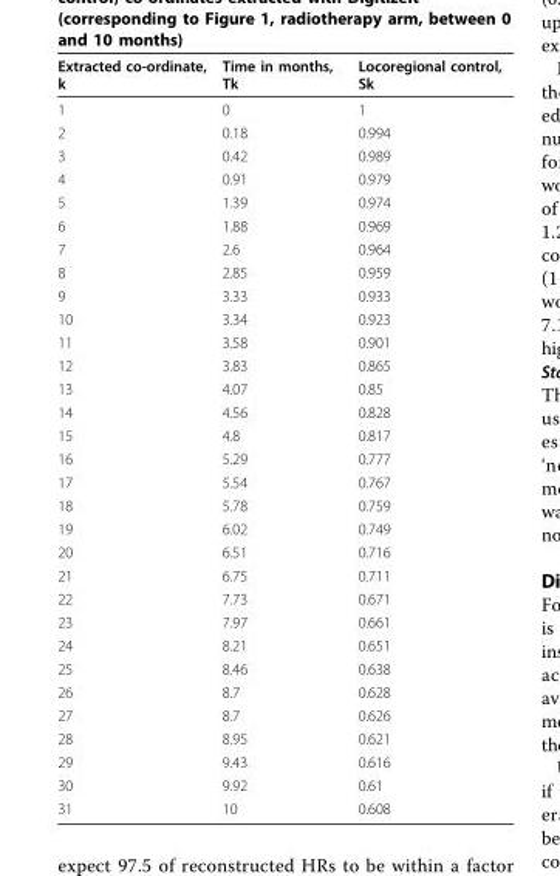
<table><thead><tr><td>Extracted co-ordinate, k</td><td>Time in months, Tk</td><td>Locoregional control, Sk</td></tr></thead><tbody><tr><td>1</td><td>0</td><td>1</td></tr><tr><td>2</td><td>0.18</td><td>0.994</td></tr><tr><td>3</td><td>0.42</td><td>0.989</td></tr><tr><td>4</td><td>0.91</td><td>0.979</td></tr><tr><td>5</td><td>1.39</td><td>0.974</td></tr><tr><td>6</td><td>1.88</td><td>0.969</td></tr><tr><td>7</td><td>2.6</td><td>0.964</td></tr><tr><td>8</td><td>2.85</td><td>0.959</td></tr><tr><td>9</td><td>3.33</td><td>0.933</td></tr><tr><td>10</td><td>3.34</td><td>0.923</td></tr><tr><td>11</td><td>3.58</td><td>0.901</td></tr><tr><td>12</td><td>3.83</td><td>0.865</td></tr><tr><td>13</td><td>4.07</td><td>0.85</td></tr><tr><td>14</td><td>4.56</td><td>0.828</td></tr><tr><td>15</td><td>4.8</td><td>0.817</td></tr><tr><td>16</td><td>5.29</td><td>0.777</td></tr><tr><td>17</td><td>5.54</td><td>0.767</td></tr><tr><td>18</td><td>5.78</td><td>0.759</td></tr><tr><td>19</td><td>6.02</td><td>0.749</td></tr><tr><td>20</td><td>6.51</td><td>0.716</td></tr><tr><td>21</td><td>6.75</td><td>0.711</td></tr><tr><td>22</td><td>7.73</td><td>0.671</td></tr><tr><td>23</td><td>7.97</td><td>0.661</td></tr><tr><td>24</td><td>8.21</td><td>0.651</td></tr><tr><td>25</td><td>8.46</td><td>0.638</td></tr><tr><td>26</td><td>8.7</td><td>0.628</td></tr><tr><td>27</td><td>8.7</td><td>0.626</td></tr><tr><td>28</td><td>8.95</td><td>0.621</td></tr><tr><td>29</td><td>9.43</td><td>0.616</td></tr><tr><td>30</td><td>9.92</td><td>0.61</td></tr><tr><td>31</td><td>10</td><td>0.608</td></tr></tbody></table>